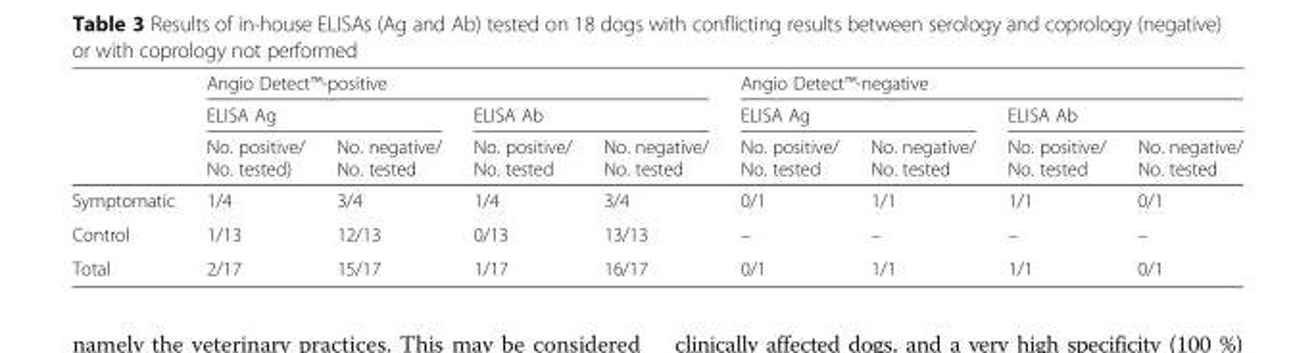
<table><thead><tr><td rowspan="3"></td><td colspan="4">Angio Detect™-positive</td><td colspan="4">Angio Detect™-negative</td></tr><tr><td colspan="2">ELISA Ag</td><td colspan="2">ELISA Ab</td><td colspan="2">ELISA Ag</td><td colspan="2">ELISA Ab</td></tr><tr><td>No. positive/ No. tested)</td><td>No. negative/ No. tested</td><td>No. positive/ No. tested</td><td>No. negative/ No. tested</td><td>No. positive/ No. tested</td><td>No. negative/ No. tested</td><td>No. positive/ No. tested</td><td>No. negative/ No. tested</td></tr></thead><tbody><tr><td>Symptomatic</td><td>1/4</td><td>3/4</td><td>1/4</td><td>3/4</td><td>0/1</td><td>1/1</td><td>1/1</td><td>0/1</td></tr><tr><td>Control</td><td>1/13</td><td>12/13</td><td>0/13</td><td>13/13</td><td>–</td><td>–</td><td>–</td><td>–</td></tr><tr><td>Total</td><td>2/17</td><td>15/17</td><td>1/17</td><td>16/17</td><td>0/1</td><td>1/1</td><td>1/1</td><td>0/1</td></tr></tbody></table>